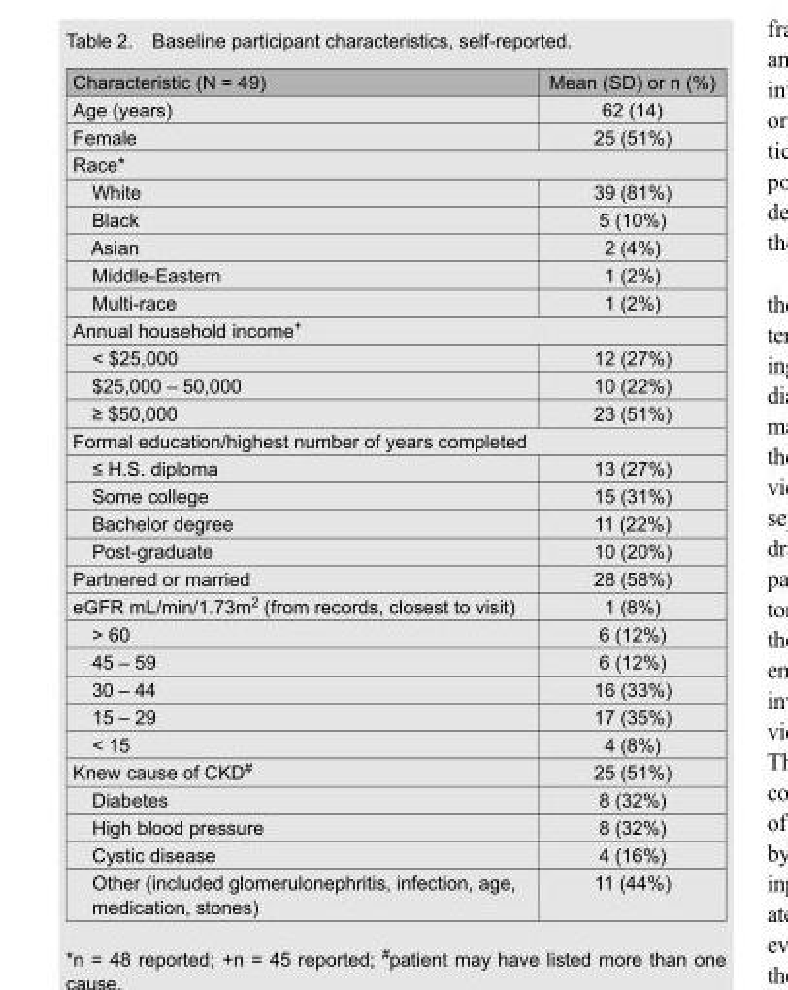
<table><thead><tr><td>Characteristic (N = 49)</td><td>Mean (SD) or n (%)</td></tr></thead><tbody><tr><td>Age (years)</td><td>62 (14)</td></tr><tr><td>Female</td><td>25 (51%)</td></tr><tr><td colspan="2">Race*</td></tr><tr><td>White</td><td>39 (81%)</td></tr><tr><td>Black</td><td>5 (10%)</td></tr><tr><td>Asian</td><td>2 (4%)</td></tr><tr><td>Middle-Eastern</td><td>1 (2%)</td></tr><tr><td>Multi-race</td><td>1 (2%)</td></tr><tr><td colspan="2">Annual household income<sup>+</sup></td></tr><tr><td>&lt; $25,000</td><td>12 (27%)</td></tr><tr><td>$25,000 – 50,000</td><td>10 (22%)</td></tr><tr><td>≥ $50,000</td><td>23 (51%)</td></tr><tr><td colspan="2">Formal education/highest number of years completed</td></tr><tr><td>≤ H.S. diploma</td><td>13 (27%)</td></tr><tr><td>Some college</td><td>15 (31%)</td></tr><tr><td>Bachelor degree</td><td>11 (22%)</td></tr><tr><td>Post-graduate</td><td>10 (20%)</td></tr><tr><td>Partnered or married</td><td>28 (58%)</td></tr><tr><td>eGFR mL/min/1.73m<sup>2</sup> (from records, closest to visit)</td><td>1 (8%)</td></tr><tr><td>&gt; 60</td><td>6 (12%)</td></tr><tr><td>45 – 59</td><td>6 (12%)</td></tr><tr><td>30 – 44</td><td>16 (33%)</td></tr><tr><td>15 – 29</td><td>17 (35%)</td></tr><tr><td>&lt; 15</td><td>4 (8%)</td></tr><tr><td>Knew cause of CKD<sup>#</sup></td><td>25 (51%)</td></tr><tr><td>Diabetes</td><td>8 (32%)</td></tr><tr><td>High blood pressure</td><td>8 (32%)</td></tr><tr><td>Cystic disease</td><td>4 (16%)</td></tr><tr><td>Other (included glomerulonephritis, infection, age, medication, stones)</td><td>11 (44%)</td></tr></tbody></table>